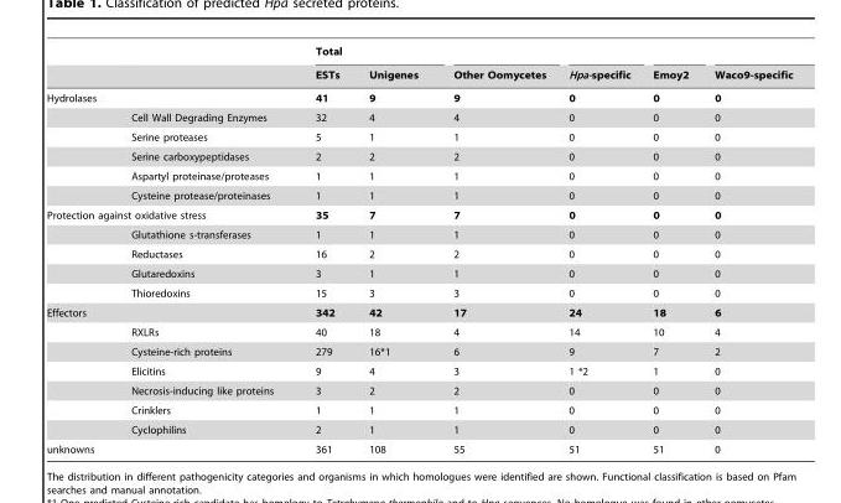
<table><thead><tr><td rowspan="2"></td><td rowspan="2"></td><td colspan="2">Total</td><td rowspan="2">Other Oomycetes</td><td rowspan="2">Hpa-specific</td><td rowspan="2">Emoy2</td><td rowspan="2">Waco9-specific</td></tr><tr><td>ESTs</td><td>Unigenes</td></tr></thead><tbody><tr><td colspan="2">Hydrolases</td><td>41</td><td>9</td><td>9</td><td>0</td><td>0</td><td>0</td></tr><tr><td></td><td>Cell Wall Degrading Enzymes</td><td>32</td><td>4</td><td>4</td><td>0</td><td>0</td><td>0</td></tr><tr><td></td><td>Serine proteases</td><td>5</td><td>1</td><td>1</td><td>0</td><td>0</td><td>0</td></tr><tr><td></td><td>Serine carboxypeptidases</td><td>2</td><td>2</td><td>2</td><td>0</td><td>0</td><td>0</td></tr><tr><td></td><td>Aspartyl proteinase/proteases</td><td>1</td><td>1</td><td>1</td><td>0</td><td>0</td><td>0</td></tr><tr><td></td><td>Cysteine protease/proteinases</td><td>1</td><td>1</td><td>1</td><td>0</td><td>0</td><td>0</td></tr><tr><td colspan="2">Protection against oxidative stress</td><td>35</td><td>7</td><td>7</td><td>0</td><td>0</td><td>0</td></tr><tr><td></td><td>Glutathione s-transferases</td><td>1</td><td>1</td><td>1</td><td>0</td><td>0</td><td>0</td></tr><tr><td></td><td>Reductases</td><td>16</td><td>2</td><td>2</td><td>0</td><td>0</td><td>0</td></tr><tr><td></td><td>Glutaredoxins</td><td>3</td><td>1</td><td>1</td><td>0</td><td>0</td><td>0</td></tr><tr><td></td><td>Thioredoxins</td><td>15</td><td>3</td><td>3</td><td>0</td><td>0</td><td>0</td></tr><tr><td rowspan="7">Effectors</td><td></td><td>342</td><td>42</td><td>17</td><td>24</td><td>18</td><td>6</td></tr><tr><td>RXLRs</td><td>40</td><td>18</td><td>4</td><td>14</td><td>10</td><td>4</td></tr><tr><td>Cysteine-rich proteins</td><td>279</td><td>16*1</td><td>6</td><td>9</td><td>7</td><td>2</td></tr><tr><td>Elicitins</td><td>9</td><td>4</td><td>3</td><td>1 *2</td><td>1</td><td>0</td></tr><tr><td>Necrosis-inducing like proteins</td><td>3</td><td>2</td><td>2</td><td>0</td><td>0</td><td>0</td></tr><tr><td>Crinklers</td><td>1</td><td>1</td><td>1</td><td>0</td><td>0</td><td>0</td></tr><tr><td>Cyclophilins</td><td>2</td><td>1</td><td>1</td><td>0</td><td>0</td><td>0</td></tr><tr><td>unknowns</td><td></td><td>361</td><td>108</td><td>55</td><td>51</td><td>51</td><td>0</td></tr></tbody></table>